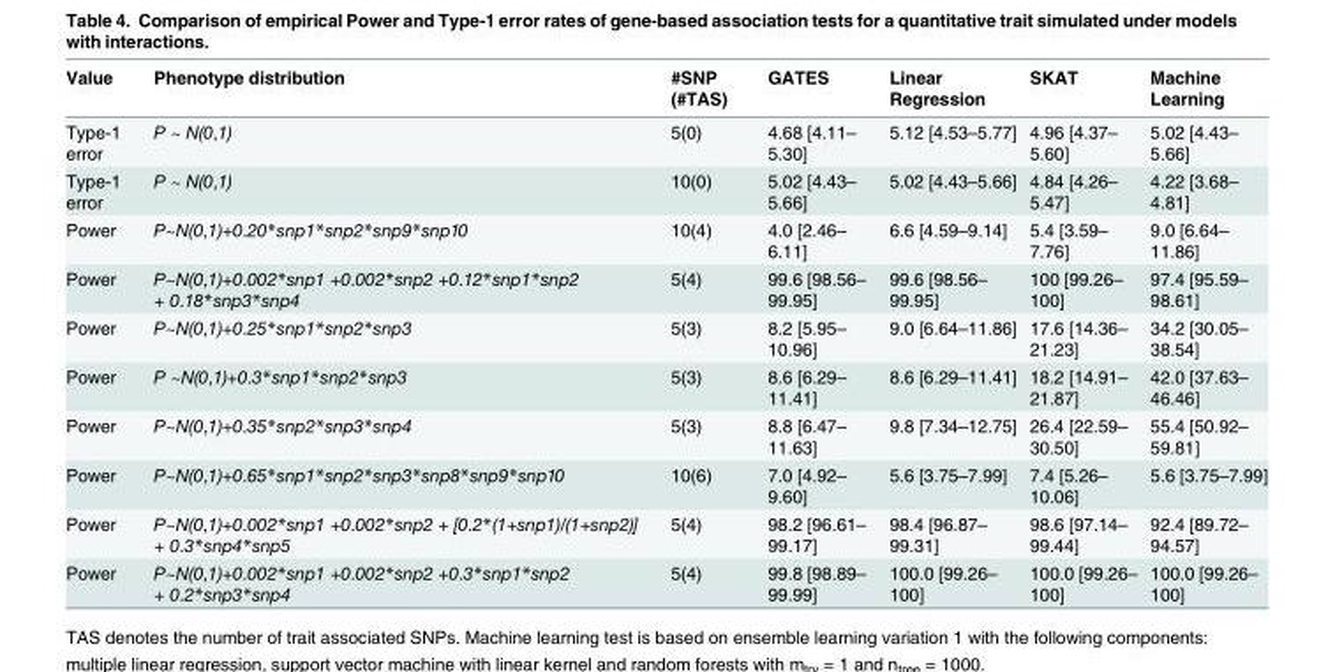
<table><thead><tr><td>Value</td><td>Phenotype distribution</td><td>#SNP (#TAS)</td><td>GATES</td><td>Linear Regression</td><td>SKAT</td><td>Machine Learning</td></tr></thead><tbody><tr><td>Type-1 error</td><td>P ~ N(0,1)</td><td>5(0)</td><td>4.68 [4.11– 5.30]</td><td>5.12 [4.53–5.77]</td><td>4.96 [4.37– 5.60]</td><td>5.02 [4.43– 5.66]</td></tr><tr><td>Type-1 error</td><td>P ~ N(0,1)</td><td>10(0)</td><td>5.02 [4.43– 5.66]</td><td>5.02 [4.43–5.66]</td><td>4.84 [4.26– 5.47]</td><td>4.22 [3.68– 4.81]</td></tr><tr><td>Power</td><td>P~N(0,1)+0.20*snp1*snp2*snp9*snp10</td><td>10(4)</td><td>4.0 [2.46– 6.11]</td><td>6.6 [4.59–9.14]</td><td>5.4 [3.59– 7.76]</td><td>9.0 [6.64– 11.86]</td></tr><tr><td>Power</td><td>P~N(0,1)+0.002*snp1 +0.002*snp2 +0.12*snp1*snp2 + 0.18*snp3*snp4</td><td>5(4)</td><td>99.6 [98.56– 99.95]</td><td>99.6 [98.56– 99.95]</td><td>100 [99.26– 100]</td><td>97.4 [95.59– 98.61]</td></tr><tr><td>Power</td><td>P~N(0,1)+0.25*snp1*snp2*snp3</td><td>5(3)</td><td>8.2 [5.95– 10.96]</td><td>9.0 [6.64–11.86]</td><td>17.6 [14.36– 21.23]</td><td>34.2 [30.05– 38.54]</td></tr><tr><td>Power</td><td>P ~N(0,1)+0.3*snp1*snp2*snp3</td><td>5(3)</td><td>8.6 [6.29– 11.41]</td><td>8.6 [6.29–11.41]</td><td>18.2 [14.91– 21.87]</td><td>42.0 [37.63– 46.46]</td></tr><tr><td>Power</td><td>P~N(0,1)+0.35*snp2*snp3*snp4</td><td>5(3)</td><td>8.8 [6.47– 11.63]</td><td>9.8 [7.34–12.75]</td><td>26.4 [22.59– 30.50]</td><td>55.4 [50.92– 59.81]</td></tr><tr><td>Power</td><td>P~N(0,1)+0.65*snp1*snp2*snp3*snp8*snp9*snp10</td><td>10(6)</td><td>7.0 [4.92– 9.60]</td><td>5.6 [3.75–7.99]</td><td>7.4 [5.26– 10.06]</td><td>5.6 [3.75–7.99]</td></tr><tr><td>Power</td><td>P~N(0,1)+0.002*snp1 +0.002*snp2 + [0.2*(1+snp1)/(1+snp2)] + 0.3*snp4*snp5</td><td>5(4)</td><td>98.2 [96.61– 99.17]</td><td>98.4 [96.87– 99.31]</td><td>98.6 [97.14– 99.44]</td><td>92.4 [89.72– 94.57]</td></tr><tr><td>Power</td><td>P~N(0,1)+0.002*snp1 +0.002*snp2 +0.3*snp1*snp2 + 0.2*snp3*snp4</td><td>5(4)</td><td>99.8 [98.89– 99.99]</td><td>100.0 [99.26– 100]</td><td>100.0 [99.26– 100]</td><td>100.0 [99.26– 100]</td></tr></tbody></table>